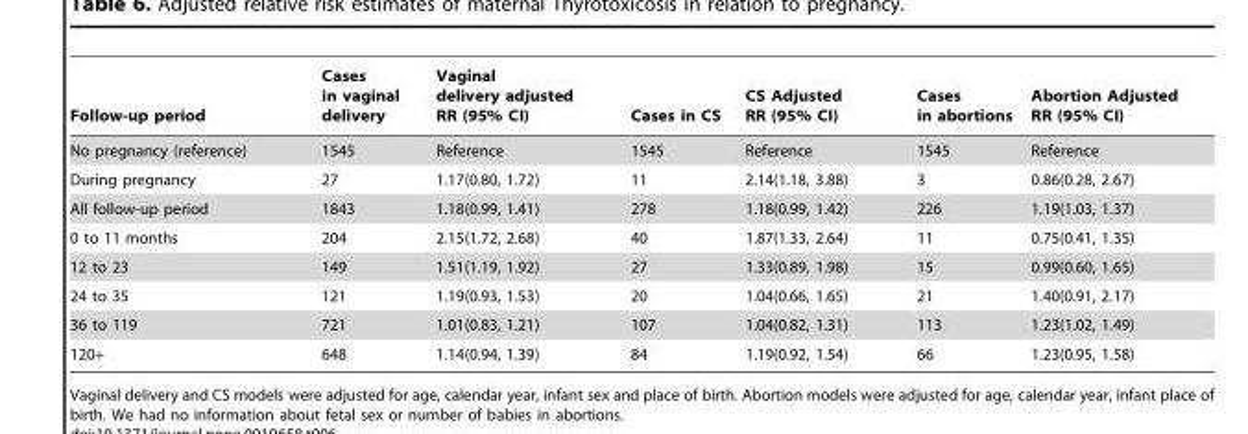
<table><thead><tr><td>Follow-up period</td><td>Cases in vaginal delivery</td><td>Vaginal delivery adjusted RR (95% CI)</td><td>Cases in CS</td><td>CS Adjusted RR (95% CI)</td><td>Cases in abortions</td><td>Abortion Adjusted RR (95% CI)</td></tr></thead><tbody><tr><td>No pregnancy (reference)</td><td>1545</td><td>Reference</td><td>1545</td><td>Reference</td><td>1545</td><td>Reference</td></tr><tr><td>During pregnancy</td><td>27</td><td>1.17(0.80, 1.72)</td><td>11</td><td>2.14(1.18, 3.88)</td><td>3</td><td>0.86(0.28, 2.67)</td></tr><tr><td>All follow-up period</td><td>1843</td><td>1.18(0.99, 1.41)</td><td>278</td><td>1.18(0.99, 1.42)</td><td>226</td><td>1.19(1.03, 1.37)</td></tr><tr><td>0 to 11 months</td><td>204</td><td>2.15(1.72, 2.68)</td><td>40</td><td>1.87(1.33, 2.64)</td><td>11</td><td>0.75(0.41, 1.35)</td></tr><tr><td>12 to 23</td><td>149</td><td>1.51(1.19, 1.92)</td><td>27</td><td>1.33(0.89, 1.98)</td><td>15</td><td>0.99(0.60, 1.65)</td></tr><tr><td>24 to 35</td><td>121</td><td>1.19(0.93, 1.53)</td><td>20</td><td>1.04(0.66, 1.65)</td><td>21</td><td>1.40(0.91, 2.17)</td></tr><tr><td>36 to 119</td><td>721</td><td>1.01(0.83, 1.21)</td><td>107</td><td>1.04(0.82, 1.31)</td><td>113</td><td>1.23(1.02, 1.49)</td></tr><tr><td>120+</td><td>648</td><td>1.14(0.94, 1.39)</td><td>84</td><td>1.19(0.92, 1.54)</td><td>66</td><td>1.23(0.95, 1.58)</td></tr></tbody></table>